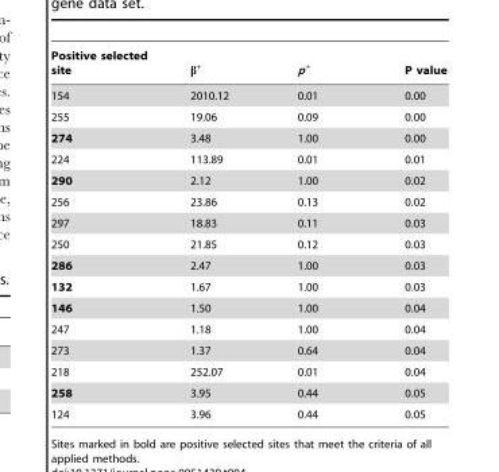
<table><thead><tr><td>Positive selected site</td><td>β<sup>+</sup></td><td>p<sup>+</sup></td><td>P value</td></tr></thead><tbody><tr><td>154</td><td>2010.12</td><td>0.01</td><td>0.00</td></tr><tr><td>255</td><td>19.06</td><td>0.09</td><td>0.00</td></tr><tr><td>274</td><td>3.48</td><td>1.00</td><td>0.00</td></tr><tr><td>224</td><td>113.89</td><td>0.01</td><td>0.01</td></tr><tr><td>290</td><td>2.12</td><td>1.00</td><td>0.02</td></tr><tr><td>256</td><td>23.86</td><td>0.13</td><td>0.02</td></tr><tr><td>297</td><td>18.83</td><td>0.11</td><td>0.03</td></tr><tr><td>250</td><td>21.85</td><td>0.12</td><td>0.03</td></tr><tr><td>286</td><td>2.47</td><td>1.00</td><td>0.03</td></tr><tr><td>132</td><td>1.67</td><td>1.00</td><td>0.03</td></tr><tr><td>146</td><td>1.50</td><td>1.00</td><td>0.04</td></tr><tr><td>247</td><td>1.18</td><td>1.00</td><td>0.04</td></tr><tr><td>273</td><td>1.37</td><td>0.64</td><td>0.04</td></tr><tr><td>218</td><td>252.07</td><td>0.01</td><td>0.04</td></tr><tr><td>258</td><td>3.95</td><td>0.44</td><td>0.05</td></tr><tr><td>124</td><td>3.96</td><td>0.44</td><td>0.05</td></tr></tbody></table>